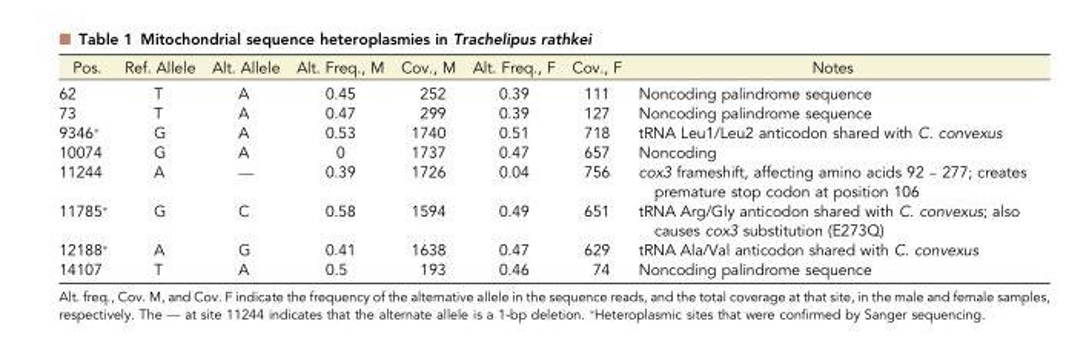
<table><thead><tr><td>Pos.</td><td>Ref. Allele</td><td>Alt. Allele</td><td>Alt. Freq., M</td><td>Cov., M</td><td>Alt. Freq., F</td><td>Cov., F</td><td>Notes</td></tr></thead><tbody><tr><td>62</td><td>T</td><td>A</td><td>0.45</td><td>252</td><td>0.39</td><td>111</td><td>Noncoding palindrome sequence</td></tr><tr><td>73</td><td>T</td><td>A</td><td>0.47</td><td>299</td><td>0.39</td><td>127</td><td>Noncoding palindrome sequence</td></tr><tr><td>9346*</td><td>G</td><td>A</td><td>0.53</td><td>1740</td><td>0.51</td><td>718</td><td>tRNA Leu1/Leu2 anticodon shared with C. convexus</td></tr><tr><td>10074</td><td>G</td><td>A</td><td>0</td><td>1737</td><td>0.47</td><td>657</td><td>Noncoding</td></tr><tr><td>11244</td><td>A</td><td>—</td><td>0.39</td><td>1726</td><td>0.04</td><td>756</td><td>cox3 frameshift, affecting amino acids 92 – 277; creates premature stop codon at position 106</td></tr><tr><td>11785*</td><td>G</td><td>C</td><td>0.58</td><td>1594</td><td>0.49</td><td>651</td><td>tRNA Arg/Gly anticodon shared with C. convexus; also causes cox3 substitution (E273Q)</td></tr><tr><td>12188*</td><td>A</td><td>G</td><td>0.41</td><td>1638</td><td>0.47</td><td>629</td><td>tRNA Ala/Val anticodon shared with C. convexus</td></tr><tr><td>14107</td><td>T</td><td>A</td><td>0.5</td><td>193</td><td>0.46</td><td>74</td><td>Noncoding palindrome sequence</td></tr></tbody></table>